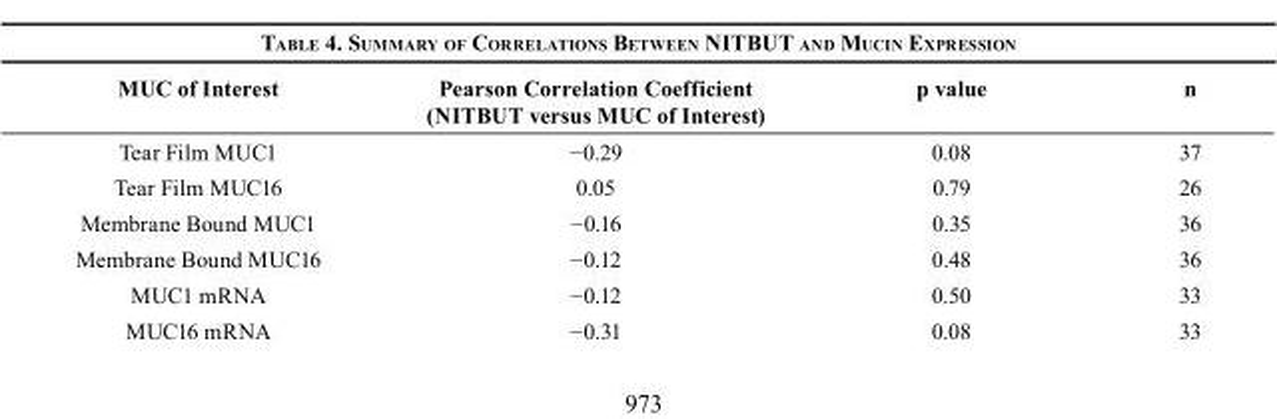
<table><thead><tr><td>MUC of Interest</td><td>Pearson Correlation Coefficient (NITBUT versus MUC of Interest)</td><td>p value</td><td>n</td></tr></thead><tbody><tr><td>Tear Film MUC1</td><td>−0.29</td><td>0.08</td><td>37</td></tr><tr><td>Tear Film MUC16</td><td>0.05</td><td>0.79</td><td>26</td></tr><tr><td>Membrane Bound MUC1</td><td>−0.16</td><td>0.35</td><td>36</td></tr><tr><td>Membrane Bound MUC16</td><td>−0.12</td><td>0.48</td><td>36</td></tr><tr><td>MUC1 mRNA</td><td>−0.12</td><td>0.50</td><td>33</td></tr><tr><td>MUC16 mRNA</td><td>−0.31</td><td>0.08</td><td>33</td></tr></tbody></table>